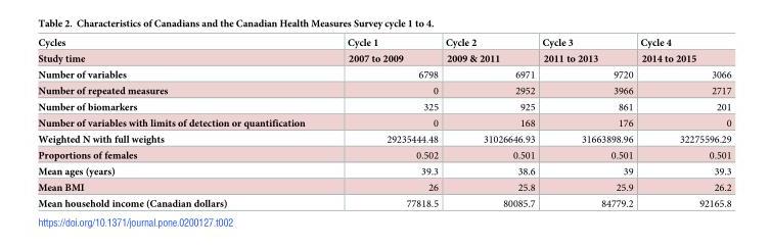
<table><thead><tr><td rowspan="2">Cycles Study time</td><td rowspan="2">Cycle 1 2007 to 2009</td><td rowspan="2">Cycle 2 2009 &amp; 2011</td><td rowspan="2">Cycle 3 2011 to 2013</td><td rowspan="2">Cycle 4 2014 to 2015</td></tr><tr></tr></thead><tbody><tr><td>Number of variables</td><td>6798</td><td>6971</td><td>9720</td><td>3066</td></tr><tr><td>Number of repeated measures</td><td>0</td><td>2952</td><td>3966</td><td>2717</td></tr><tr><td>Number of biomarkers</td><td>325</td><td>925</td><td>861</td><td>201</td></tr><tr><td>Number of variables with limits of detection or quantification</td><td>0</td><td>168</td><td>176</td><td>0</td></tr><tr><td>Weighted N with full weights</td><td>29235444.48</td><td>31026646.93</td><td>31663898.96</td><td>32275596.29</td></tr><tr><td>Proportions of females</td><td>0.502</td><td>0.501</td><td>0.501</td><td>0.501</td></tr><tr><td>Mean ages (years)</td><td>39.3</td><td>38.6</td><td>39</td><td>39.3</td></tr><tr><td>Mean BMI</td><td>26</td><td>25.8</td><td>25.9</td><td>26.2</td></tr><tr><td>Mean household income (Canadian dollars)</td><td>77818.5</td><td>80085.7</td><td>84779.2</td><td>92165.8</td></tr></tbody></table>